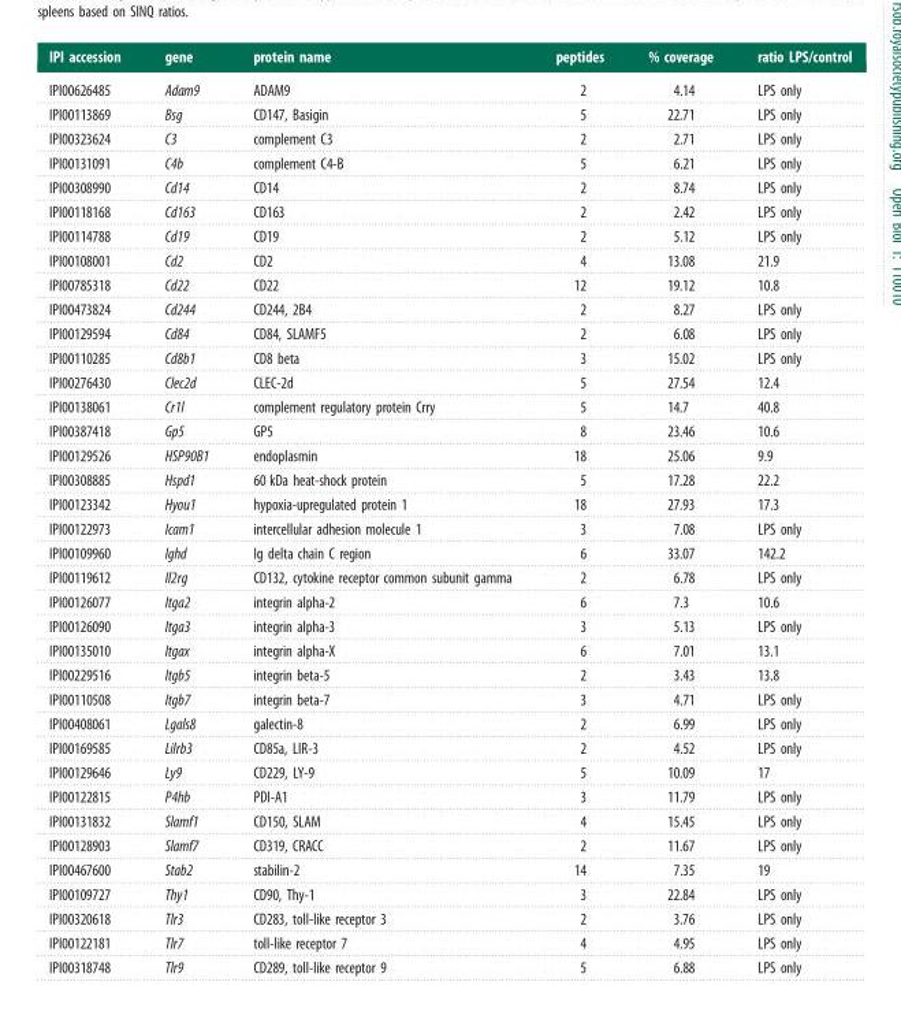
<table><thead><tr><td>IPI accession</td><td>gene</td><td>protein name</td><td>peptides</td><td>% coverage</td><td>ratio LPS/control</td></tr></thead><tbody><tr><td>IPI00626485</td><td>Adam9</td><td>ADAM9</td><td>2</td><td>4.14</td><td>LPS only</td></tr><tr><td>IPI00113869</td><td>Bsg</td><td>CD147, Basigin</td><td>5</td><td>22.71</td><td>LPS only</td></tr><tr><td>IPI00323624</td><td>C3</td><td>complement C3</td><td>2</td><td>2.71</td><td>LPS only</td></tr><tr><td>IPI00131091</td><td>C4b</td><td>complement C4-B</td><td>5</td><td>6.21</td><td>LPS only</td></tr><tr><td>IPI00308990</td><td>Cd14</td><td>CD14</td><td>2</td><td>8.74</td><td>LPS only</td></tr><tr><td>IPI00118168</td><td>Cd163</td><td>CD163</td><td>2</td><td>2.42</td><td>LPS only</td></tr><tr><td>IPI00114788</td><td>Cd19</td><td>CD19</td><td>2</td><td>5.12</td><td>LPS only</td></tr><tr><td>IPI00108001</td><td>Cd2</td><td>CD2</td><td>4</td><td>13.08</td><td>21.9</td></tr><tr><td>IPI00785318</td><td>Cd22</td><td>CD22</td><td>12</td><td>19.12</td><td>10.8</td></tr><tr><td>IPI00473824</td><td>Cd244</td><td>CD244, 2B4</td><td>2</td><td>8.27</td><td>LPS only</td></tr><tr><td>IPI00129594</td><td>Cd84</td><td>CD84, SLAMF5</td><td>2</td><td>6.08</td><td>LPS only</td></tr><tr><td>IPI00110285</td><td>Cd8b1</td><td>CD8 beta</td><td>3</td><td>15.02</td><td>LPS only</td></tr><tr><td>IPI00276430</td><td>Clec2d</td><td>CLEC-2d</td><td>5</td><td>27.54</td><td>12.4</td></tr><tr><td>IPI00138061</td><td>Cr1l</td><td>complement regulatory protein Crry</td><td>5</td><td>14.7</td><td>40.8</td></tr><tr><td>IPI00387418</td><td>Gp5</td><td>GP5</td><td>8</td><td>23.46</td><td>10.6</td></tr><tr><td>IPI00129526</td><td>HSP90B1</td><td>endoplasmin</td><td>18</td><td>25.06</td><td>9.9</td></tr><tr><td>IPI00308885</td><td>Hspd1</td><td>60 kDa heat-shock protein</td><td>5</td><td>17.28</td><td>22.2</td></tr><tr><td>IPI00123342</td><td>Hyou1</td><td>hypoxia-upregulated protein 1</td><td>18</td><td>27.93</td><td>17.3</td></tr><tr><td>IPI00122973</td><td>Icam1</td><td>intercellular adhesion molecule 1</td><td>3</td><td>7.08</td><td>LPS only</td></tr><tr><td>IPI00109960</td><td>Ighd</td><td>Ig delta chain C region</td><td>6</td><td>33.07</td><td>142.2</td></tr><tr><td>IPI00119612</td><td>Il2rg</td><td>CD132, cytokine receptor common subunit gamma</td><td>2</td><td>6.78</td><td>LPS only</td></tr><tr><td>IPI00126077</td><td>Itga2</td><td>integrin alpha-2</td><td>6</td><td>7.3</td><td>10.6</td></tr><tr><td>IPI00126090</td><td>Itga3</td><td>integrin alpha-3</td><td>3</td><td>5.13</td><td>LPS only</td></tr><tr><td>IPI00135010</td><td>Itgax</td><td>integrin alpha-X</td><td>6</td><td>7.01</td><td>13.1</td></tr><tr><td>IPI00229516</td><td>Itgb5</td><td>integrin beta-5</td><td>2</td><td>3.43</td><td>13.8</td></tr><tr><td>IPI00110508</td><td>Itgb7</td><td>integrin beta-7</td><td>3</td><td>4.71</td><td>LPS only</td></tr><tr><td>IPI00408061</td><td>Lgals8</td><td>galectin-8</td><td>2</td><td>6.99</td><td>LPS only</td></tr><tr><td>IPI00169585</td><td>Lilrb3</td><td>CD85a, LIR-3</td><td>2</td><td>4.52</td><td>LPS only</td></tr><tr><td>IPI00129646</td><td>Ly9</td><td>CD229, LY-9</td><td>5</td><td>10.09</td><td>17</td></tr><tr><td>IPI00122815</td><td>P4hb</td><td>PDI-A1</td><td>3</td><td>11.79</td><td>LPS only</td></tr><tr><td>IPI00131832</td><td>Slamf1</td><td>CD150, SLAM</td><td>4</td><td>15.45</td><td>LPS only</td></tr><tr><td>IPI00128903</td><td>Slamf7</td><td>CD319, CRACC</td><td>2</td><td>11.67</td><td>LPS only</td></tr><tr><td>IPI00467600</td><td>Stab2</td><td>stabilin-2</td><td>14</td><td>7.35</td><td>19</td></tr><tr><td>IPI00109727</td><td>Thy1</td><td>CD90, Thy-1</td><td>3</td><td>22.84</td><td>LPS only</td></tr><tr><td>IPI00320618</td><td>Tlr3</td><td>CD283, toll-like receptor 3</td><td>2</td><td>3.76</td><td>LPS only</td></tr><tr><td>IPI00122181</td><td>Tlr7</td><td>toll-like receptor 7</td><td>4</td><td>4.95</td><td>LPS only</td></tr><tr><td>IPI00318748</td><td>Tlr9</td><td>CD289, toll-like receptor 9</td><td>5</td><td>6.88</td><td>LPS only</td></tr></tbody></table>